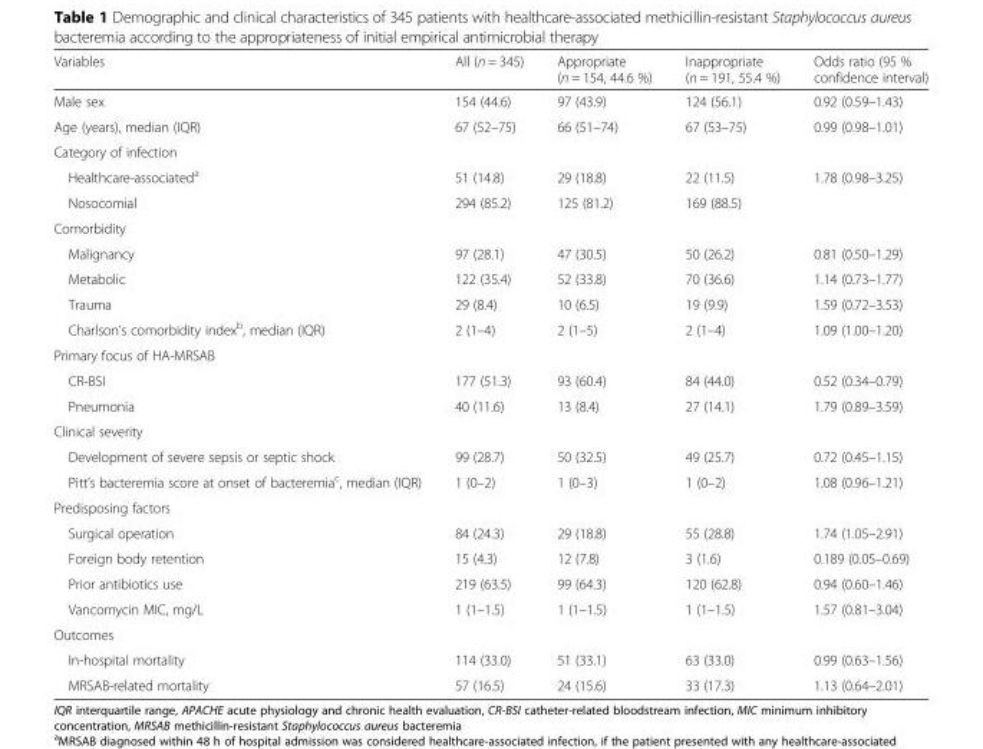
<table><thead><tr><td>Variables</td><td>All (n = 345)</td><td>Appropriate (n = 154, 44.6 %)</td><td>Inappropriate (n = 191, 55.4 %)</td><td>Odds ratio (95 % confidence interval)</td></tr></thead><tbody><tr><td>Male sex</td><td>154 (44.6)</td><td>97 (43.9)</td><td>124 (56.1)</td><td>0.92 (0.59–1.43)</td></tr><tr><td>Age (years), median (IQR)</td><td>67 (52–75)</td><td>66 (51–74)</td><td>67 (53–75)</td><td>0.99 (0.98–1.01)</td></tr><tr><td colspan="5">Category of infection</td></tr><tr><td>Healthcare-associated<sup>a</sup></td><td>51 (14.8)</td><td>29 (18.8)</td><td>22 (11.5)</td><td rowspan="2">1.78 (0.98–3.25)</td></tr><tr><td>Nosocomial</td><td>294 (85.2)</td><td>125 (81.2)</td><td>169 (88.5)</td></tr><tr><td colspan="5">Comorbidity</td></tr><tr><td>Malignancy</td><td>97 (28.1)</td><td>47 (30.5)</td><td>50 (26.2)</td><td>0.81 (0.50–1.29)</td></tr><tr><td>Metabolic</td><td>122 (35.4)</td><td>52 (33.8)</td><td>70 (36.6)</td><td>1.14 (0.73–1.77)</td></tr><tr><td>Trauma</td><td>29 (8.4)</td><td>10 (6.5)</td><td>19 (9.9)</td><td>1.59 (0.72–3.53)</td></tr><tr><td>Charlson’s comorbidity index<sup>b</sup>, median (IQR)</td><td>2 (1–4)</td><td>2 (1–5)</td><td>2 (1–4)</td><td>1.09 (1.00–1.20)</td></tr><tr><td colspan="5">Primary focus of HA-MRSAB</td></tr><tr><td>CR-BSI</td><td>177 (51.3)</td><td>93 (60.4)</td><td>84 (44.0)</td><td>0.52 (0.34–0.79)</td></tr><tr><td>Pneumonia</td><td>40 (11.6)</td><td>13 (8.4)</td><td>27 (14.1)</td><td>1.79 (0.89–3.59)</td></tr><tr><td colspan="5">Clinical severity</td></tr><tr><td>Development of severe sepsis or septic shock</td><td>99 (28.7)</td><td>50 (32.5)</td><td>49 (25.7)</td><td>0.72 (0.45–1.15)</td></tr><tr><td>Pitt’s bacteremia score at onset of bacteremia<sup>c</sup>, median (IQR)</td><td>1 (0–2)</td><td>1 (0–3)</td><td>1 (0–2)</td><td>1.08 (0.96–1.21)</td></tr><tr><td colspan="5">Predisposing factors</td></tr><tr><td>Surgical operation</td><td>84 (24.3)</td><td>29 (18.8)</td><td>55 (28.8)</td><td>1.74 (1.05–2.91)</td></tr><tr><td>Foreign body retention</td><td>15 (4.3)</td><td>12 (7.8)</td><td>3 (1.6)</td><td>0.189 (0.05–0.69)</td></tr><tr><td>Prior antibiotics use</td><td>219 (63.5)</td><td>99 (64.3)</td><td>120 (62.8)</td><td>0.94 (0.60–1.46)</td></tr><tr><td>Vancomycin MIC, mg/L</td><td>1 (1–1.5)</td><td>1 (1–1.5)</td><td>1 (1–1.5)</td><td>1.57 (0.81–3.04)</td></tr><tr><td colspan="5">Outcomes</td></tr><tr><td>In-hospital mortality</td><td>114 (33.0)</td><td>51 (33.1)</td><td>63 (33.0)</td><td>0.99 (0.63–1.56)</td></tr><tr><td>MRSAB-related mortality</td><td>57 (16.5)</td><td>24 (15.6)</td><td>33 (17.3)</td><td>1.13 (0.64–2.01)</td></tr></tbody></table>